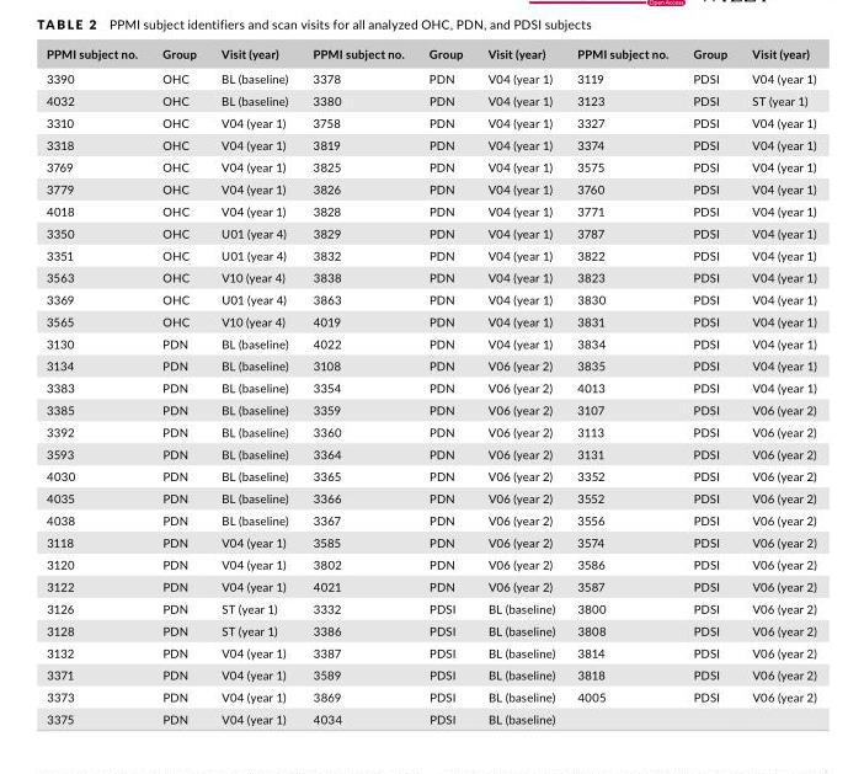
<table><thead><tr><td>PPMI subject no.</td><td>Group</td><td>Visit (year)</td><td>PPMI subject no.</td><td>Group</td><td>Visit (year)</td><td>PPMI subject no.</td><td>Group</td><td>Visit (year)</td></tr></thead><tbody><tr><td>3390</td><td>OHC</td><td>BL (baseline)</td><td>3378</td><td>PDN</td><td>V04 (year 1)</td><td>3119</td><td>PDSI</td><td>V04 (year 1)</td></tr><tr><td>4032</td><td>OHC</td><td>BL (baseline)</td><td>3380</td><td>PDN</td><td>V04 (year 1)</td><td>3123</td><td>PDSI</td><td>ST (year 1)</td></tr><tr><td>3310</td><td>OHC</td><td>V04 (year 1)</td><td>3758</td><td>PDN</td><td>V04 (year 1)</td><td>3327</td><td>PDSI</td><td>V04 (year 1)</td></tr><tr><td>3318</td><td>OHC</td><td>V04 (year 1)</td><td>3819</td><td>PDN</td><td>V04 (year 1)</td><td>3374</td><td>PDSI</td><td>V04 (year 1)</td></tr><tr><td>3769</td><td>OHC</td><td>V04 (year 1)</td><td>3825</td><td>PDN</td><td>V04 (year 1)</td><td>3575</td><td>PDSI</td><td>V04 (year 1)</td></tr><tr><td>3779</td><td>OHC</td><td>V04 (year 1)</td><td>3826</td><td>PDN</td><td>V04 (year 1)</td><td>3760</td><td>PDSI</td><td>V04 (year 1)</td></tr><tr><td>4018</td><td>OHC</td><td>V04 (year 1)</td><td>3828</td><td>PDN</td><td>V04 (year 1)</td><td>3771</td><td>PDSI</td><td>V04 (year 1)</td></tr><tr><td>3350</td><td>OHC</td><td>U01 (year 4)</td><td>3829</td><td>PDN</td><td>V04 (year 1)</td><td>3787</td><td>PDSI</td><td>V04 (year 1)</td></tr><tr><td>3351</td><td>OHC</td><td>U01 (year 4)</td><td>3832</td><td>PDN</td><td>V04 (year 1)</td><td>3822</td><td>PDSI</td><td>V04 (year 1)</td></tr><tr><td>3563</td><td>OHC</td><td>V10 (year 4)</td><td>3838</td><td>PDN</td><td>V04 (year 1)</td><td>3823</td><td>PDSI</td><td>V04 (year 1)</td></tr><tr><td>3369</td><td>OHC</td><td>U01 (year 4)</td><td>3863</td><td>PDN</td><td>V04 (year 1)</td><td>3830</td><td>PDSI</td><td>V04 (year 1)</td></tr><tr><td>3565</td><td>OHC</td><td>V10 (year 4)</td><td>4019</td><td>PDN</td><td>V04 (year 1)</td><td>3831</td><td>PDSI</td><td>V04 (year 1)</td></tr><tr><td>3130</td><td>PDN</td><td>BL (baseline)</td><td>4022</td><td>PDN</td><td>V04 (year 1)</td><td>3834</td><td>PDSI</td><td>V04 (year 1)</td></tr><tr><td>3134</td><td>PDN</td><td>BL (baseline)</td><td>3108</td><td>PDN</td><td>V06 (year 2)</td><td>3835</td><td>PDSI</td><td>V04 (year 1)</td></tr><tr><td>3383</td><td>PDN</td><td>BL (baseline)</td><td>3354</td><td>PDN</td><td>V06 (year 2)</td><td>4013</td><td>PDSI</td><td>V04 (year 1)</td></tr><tr><td>3385</td><td>PDN</td><td>BL (baseline)</td><td>3359</td><td>PDN</td><td>V06 (year 2)</td><td>3107</td><td>PDSI</td><td>V06 (year 2)</td></tr><tr><td>3392</td><td>PDN</td><td>BL (baseline)</td><td>3360</td><td>PDN</td><td>V06 (year 2)</td><td>3113</td><td>PDSI</td><td>V06 (year 2)</td></tr><tr><td>3593</td><td>PDN</td><td>BL (baseline)</td><td>3364</td><td>PDN</td><td>V06 (year 2)</td><td>3131</td><td>PDSI</td><td>V06 (year 2)</td></tr><tr><td>4030</td><td>PDN</td><td>BL (baseline)</td><td>3365</td><td>PDN</td><td>V06 (year 2)</td><td>3352</td><td>PDSI</td><td>V06 (year 2)</td></tr><tr><td>4035</td><td>PDN</td><td>BL (baseline)</td><td>3366</td><td>PDN</td><td>V06 (year 2)</td><td>3552</td><td>PDSI</td><td>V06 (year 2)</td></tr><tr><td>4038</td><td>PDN</td><td>BL (baseline)</td><td>3367</td><td>PDN</td><td>V06 (year 2)</td><td>3556</td><td>PDSI</td><td>V06 (year 2)</td></tr><tr><td>3118</td><td>PDN</td><td>V04 (year 1)</td><td>3585</td><td>PDN</td><td>V06 (year 2)</td><td>3574</td><td>PDSI</td><td>V06 (year 2)</td></tr><tr><td>3120</td><td>PDN</td><td>V04 (year 1)</td><td>3802</td><td>PDN</td><td>V06 (year 2)</td><td>3586</td><td>PDSI</td><td>V06 (year 2)</td></tr><tr><td>3122</td><td>PDN</td><td>V04 (year 1)</td><td>4021</td><td>PDN</td><td>V06 (year 2)</td><td>3587</td><td>PDSI</td><td>V06 (year 2)</td></tr><tr><td>3126</td><td>PDN</td><td>ST (year 1)</td><td>3332</td><td>PDSI</td><td>BL (baseline)</td><td>3800</td><td>PDSI</td><td>V06 (year 2)</td></tr><tr><td>3128</td><td>PDN</td><td>ST (year 1)</td><td>3386</td><td>PDSI</td><td>BL (baseline)</td><td>3808</td><td>PDSI</td><td>V06 (year 2)</td></tr><tr><td>3132</td><td>PDN</td><td>V04 (year 1)</td><td>3387</td><td>PDSI</td><td>BL (baseline)</td><td>3814</td><td>PDSI</td><td>V06 (year 2)</td></tr><tr><td>3371</td><td>PDN</td><td>V04 (year 1)</td><td>3589</td><td>PDSI</td><td>BL (baseline)</td><td>3818</td><td>PDSI</td><td>V06 (year 2)</td></tr><tr><td>3373</td><td>PDN</td><td>V04 (year 1)</td><td>3869</td><td>PDSI</td><td>BL (baseline)</td><td>4005</td><td>PDSI</td><td>V06 (year 2)</td></tr><tr><td>3375</td><td>PDN</td><td>V04 (year 1)</td><td>4034</td><td>PDSI</td><td>BL (baseline)</td><td></td><td></td><td></td></tr></tbody></table>